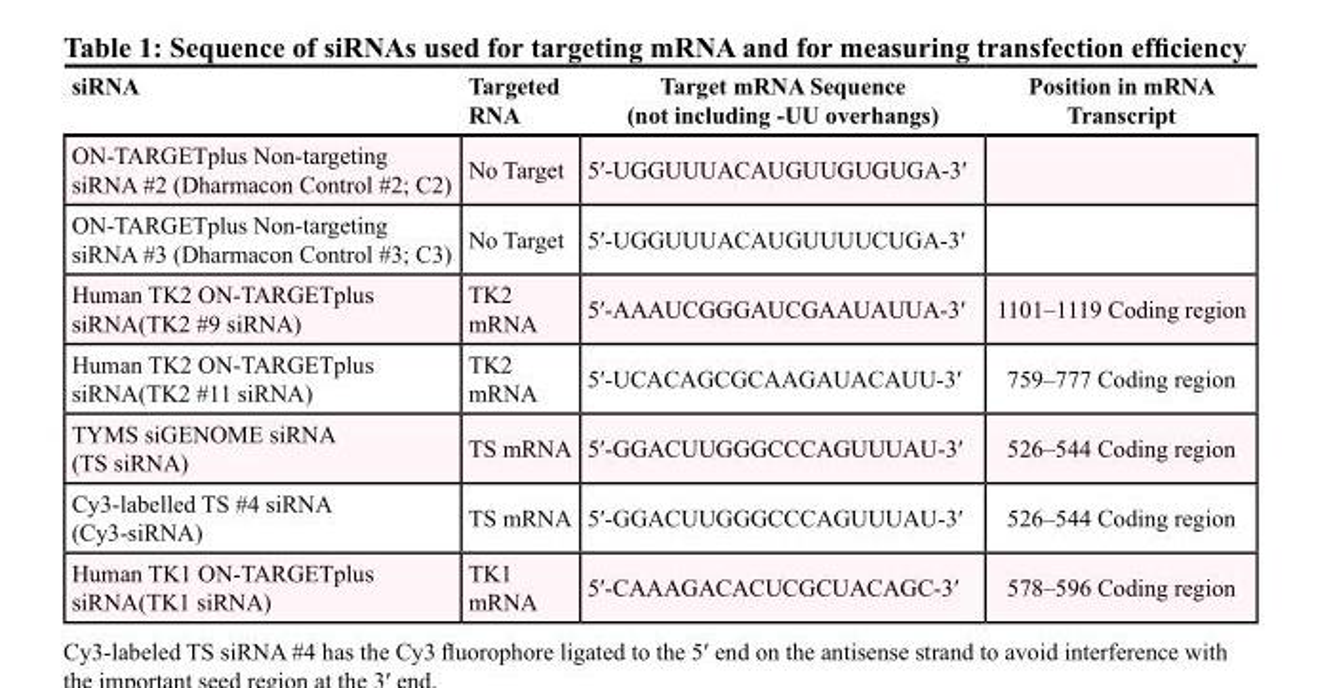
<table><thead><tr><td>siRNA</td><td>Targeted RNA</td><td>Target mRNA Sequence (not including -UU overhangs)</td><td>Position in mRNA Transcript</td></tr></thead><tbody><tr><td>ON-TARGETplus Non-targeting siRNA #2 (Dharmacon Control #2; C2)</td><td>No Target</td><td>5′-UGGUUUACAUGUUGUGUGA-3′</td><td></td></tr><tr><td>ON-TARGETplus Non-targeting siRNA #3 (Dharmacon Control #3; C3)</td><td>No Target</td><td>5′-UGGUUUACAUGUUUUCUGA-3′</td><td></td></tr><tr><td>Human TK2 ON-TARGETplus siRNA(TK2 #9 siRNA)</td><td>TK2 mRNA</td><td>5′-AAAUCGGGAUCGAAUAUUA-3′</td><td>1101–1119 Coding region</td></tr><tr><td>Human TK2 ON-TARGETplus siRNA(TK2 #11 siRNA)</td><td>TK2 mRNA</td><td>5′-UCACAGCGCAAGAUACAUU-3′</td><td>759–777 Coding region</td></tr><tr><td>TYMS siGENOME siRNA (TS siRNA)</td><td>TS mRNA</td><td>5′-GGACUUGGGCCCAGUUUAU-3′</td><td>526–544 Coding region</td></tr><tr><td>Cy3-labelled TS #4 siRNA (Cy3-siRNA)</td><td>TS mRNA</td><td>5′-GGACUUGGGCCCAGUUUAU-3′</td><td>526–544 Coding region</td></tr><tr><td>Human TK1 ON-TARGETplus siRNA(TK1 siRNA)</td><td>TK1 mRNA</td><td>5′-CAAAGACACUCGCUACAGC-3′</td><td>578–596 Coding region</td></tr></tbody></table>